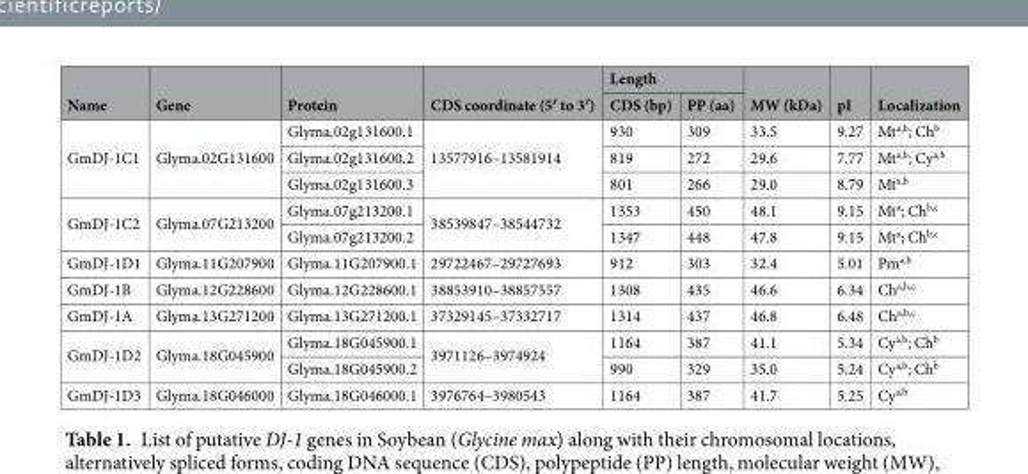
<table><thead><tr><td rowspan="2">Name</td><td rowspan="2">Gene</td><td rowspan="2">Protein</td><td rowspan="2">CDS coordinate (5′ to 3′)</td><td colspan="2">Length</td><td rowspan="2">MW (kDa)</td><td rowspan="2">pI</td><td rowspan="2">Localization</td></tr><tr><td>CDS (bp)</td><td>PP (aa)</td></tr></thead><tbody><tr><td rowspan="3">GmDJ-1C1</td><td rowspan="3">Glyma.02G131600</td><td>Glyma.02g131600.1</td><td rowspan="3">13577916–13581914</td><td>930</td><td>309</td><td>33.5</td><td>9.27</td><td>Mt<sup>a,b</sup>; Ch<sup>b</sup></td></tr><tr><td>Glyma.02g131600.2</td><td>819</td><td>272</td><td>29.6</td><td>7.77</td><td>Mt<sup>a,b</sup>; Cy<sup>a,b</sup></td></tr><tr><td>Glyma.02g131600.3</td><td>801</td><td>266</td><td>29.0</td><td>8.79</td><td>Mt<sup>a,b</sup></td></tr><tr><td rowspan="2">GmDJ-1C2</td><td rowspan="2">Glyma.07G213200</td><td>Glyma.07g213200.1</td><td rowspan="2">38539847–38544732</td><td>1353</td><td>450</td><td>48.1</td><td>9.15</td><td>Mt<sup>a</sup>; Ch<sup>b,c</sup></td></tr><tr><td>Glyma.07g213200.2</td><td>1347</td><td>448</td><td>47.8</td><td>9.15</td><td>Mt<sup>a</sup>; Ch<sup>b,c</sup></td></tr><tr><td>GmDJ-1D1</td><td>Glyma.11G207900</td><td>Glyma.11G207900.1</td><td>29722467–29727693</td><td>912</td><td>303</td><td>32.4</td><td>5.01</td><td>Pm<sup>a,b</sup></td></tr><tr><td>GmDJ-1B</td><td>Glyma.12G228600</td><td>Glyma.12G228600.1</td><td>38853910–38857557</td><td>1308</td><td>435</td><td>46.6</td><td>6.34</td><td>Ch<sup>a,b,c</sup></td></tr><tr><td>GmDJ-1A</td><td>Glyma.13G271200</td><td>Glyma.13G271200.1</td><td>37329145–37332717</td><td>1314</td><td>437</td><td>46.8</td><td>6.48</td><td>Ch<sup>a,b,c</sup></td></tr><tr><td rowspan="2">GmDJ-1D2</td><td rowspan="2">Glyma.18G045900</td><td>Glyma.18G045900.1</td><td rowspan="2">3971126–3974924</td><td>1164</td><td>387</td><td>41.1</td><td>5.34</td><td>Cy<sup>a,b</sup>; Ch<sup>b</sup></td></tr><tr><td>Glyma.18G045900.2</td><td>990</td><td>329</td><td>35.0</td><td>5.24</td><td>Cy<sup>a,b</sup>; Ch<sup>b</sup></td></tr><tr><td>GmDJ-1D3</td><td>Glyma.18G046000</td><td>Glyma.18G046000.1</td><td>3976764–3980543</td><td>1164</td><td>387</td><td>41.7</td><td>5.25</td><td>Cy<sup>a,b</sup></td></tr></tbody></table>